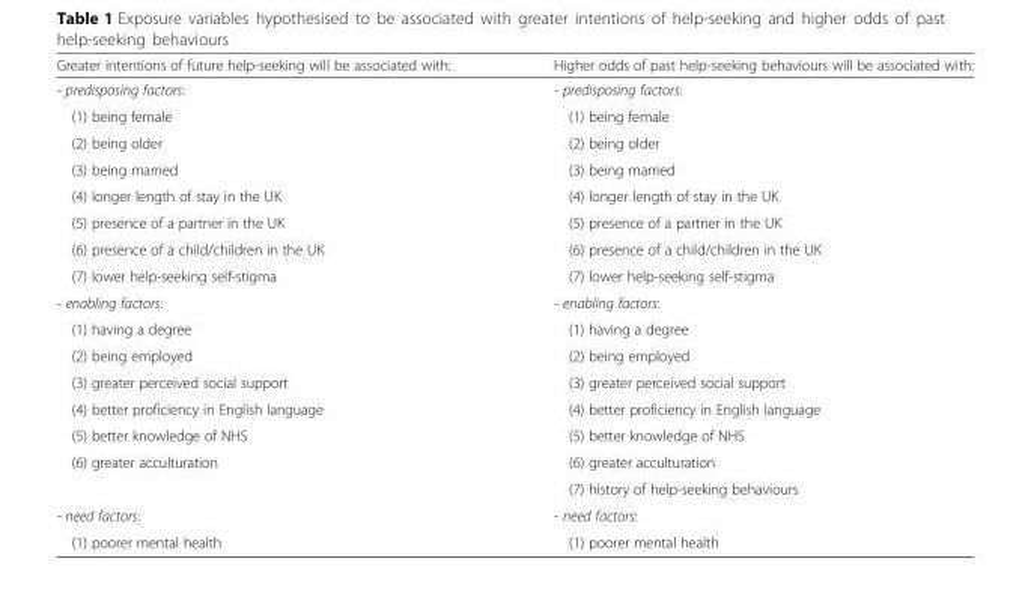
<table><thead><tr><td>Greater intentions of future help-seeking will be associated with:</td><td>Higher odds of past help-seeking behaviours will be associated with:</td></tr></thead><tbody><tr><td>- predisposing factors:</td><td>- predisposing factors:</td></tr><tr><td>(1) being female</td><td>(1) being female</td></tr><tr><td>(2) being older</td><td>(2) being older</td></tr><tr><td>(3) being married</td><td>(3) being married</td></tr><tr><td>(4) longer length of stay in the UK</td><td>(4) longer length of stay in the UK</td></tr><tr><td>(5) presence of a partner in the UK</td><td>(5) presence of a partner in the UK</td></tr><tr><td>(6) presence of a child/children in the UK</td><td>(6) presence of a child/children in the UK</td></tr><tr><td>(7) lower help-seeking self-stigma</td><td>(7) lower help-seeking self-stigma</td></tr><tr><td>- enabling factors:</td><td>- enabling factors:</td></tr><tr><td>(1) having a degree</td><td>(1) having a degree</td></tr><tr><td>(2) being employed</td><td>(2) being employed</td></tr><tr><td>(3) greater perceived social support</td><td>(3) greater perceived social support</td></tr><tr><td>(4) better proficiency in English language</td><td>(4) better proficiency in English language</td></tr><tr><td>(5) better knowledge of NHS</td><td>(5) better knowledge of NHS</td></tr><tr><td rowspan="2">(6) greater acculturation</td><td>(6) greater acculturation</td></tr><tr><td>(7) history of help-seeking behaviours</td></tr><tr><td>- need factors:</td><td>- need factors:</td></tr><tr><td>(1) poorer mental health</td><td>(1) poorer mental health</td></tr></tbody></table>